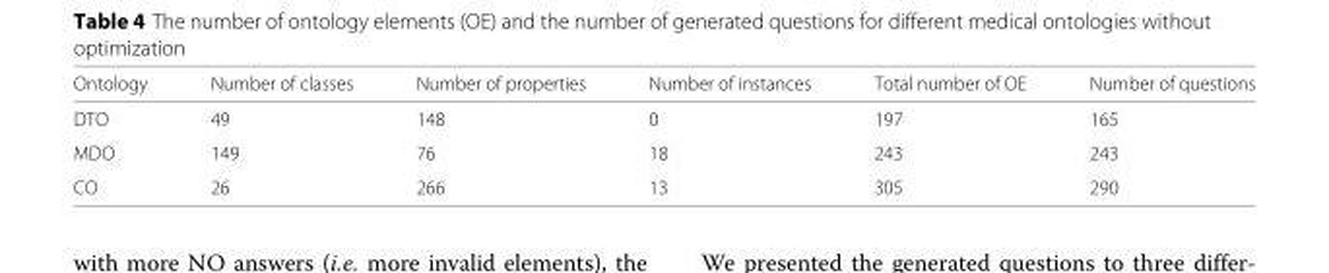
<table><thead><tr><td>Ontology</td><td>Number of classes</td><td>Number of properties</td><td>Number of instances</td><td>Total number of OE</td><td>Number of questions</td></tr></thead><tbody><tr><td>DTO</td><td>49</td><td>148</td><td>0</td><td>197</td><td>165</td></tr><tr><td>MDO</td><td>149</td><td>76</td><td>18</td><td>243</td><td>243</td></tr><tr><td>CO</td><td>26</td><td>266</td><td>13</td><td>305</td><td>290</td></tr></tbody></table>